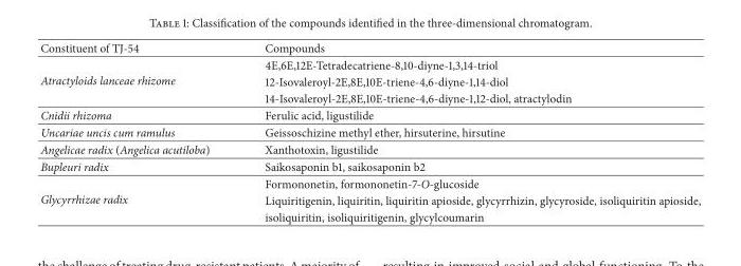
<table><thead><tr><td>Constituent of TJ-54</td><td>Compounds</td></tr></thead><tbody><tr><td rowspan="3">Atractyloids lanceae rhizome</td><td>4E,6E,12E-Tetradecatriene-8,10-diyne-1,3,14-triol</td></tr><tr><td>12-Isovaleroyl-2E,8E,10E-triene-4,6-diyne-1,14-diol</td></tr><tr><td>14-Isovaleroyl-2E,8E,10E-triene-4,6-diyne-1,12-diol, atractylodin</td></tr><tr><td>Cnidii rhizoma</td><td>Ferulic acid, ligustilide</td></tr><tr><td>Uncariae uncis cum ramulus</td><td>Geissoschizine methyl ether, hirsuterine, hirsutine</td></tr><tr><td>Angelicae radix (Angelica acutiloba)</td><td>Xanthotoxin, ligustilide</td></tr><tr><td>Bupleuri radix</td><td>Saikosaponin b1, saikosaponin b2</td></tr><tr><td rowspan="2">Glycyrrhizae radix</td><td>Formononetin, formononetin-7-O-glucoside</td></tr><tr><td>Liquiritigenin, liquiritin, liquiritin apioside, glycyrrhizin, glycyroside, isoliquiritin apioside, isoliquiritin, isoliquiritigenin, glycylcoumarin</td></tr></tbody></table>